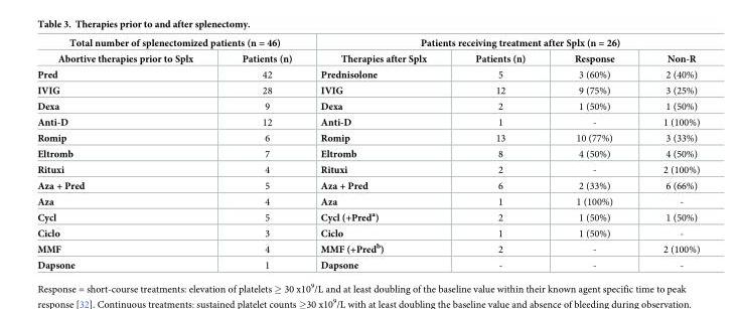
<table><thead><tr><td colspan="2">Total number of splenectomized patients (n = 46)</td><td colspan="4">Patients receiving treatment after Splx (n = 26)</td></tr><tr><td>Abortive therapies prior to Splx</td><td>Patients (n)</td><td>Therapies after Splx</td><td>Patients (n)</td><td>Response</td><td>Non-R</td></tr></thead><tbody><tr><td>Pred</td><td>42</td><td>Prednisolone</td><td>5</td><td>3 (60%)</td><td>2 (40%)</td></tr><tr><td>IVIG</td><td>28</td><td>IVIG</td><td>12</td><td>9 (75%)</td><td>3 (25%)</td></tr><tr><td>Dexa</td><td>9</td><td>Dexa</td><td>2</td><td>1 (50%)</td><td>1 (50%)</td></tr><tr><td>Anti-D</td><td>12</td><td>Anti-D</td><td>1</td><td>-</td><td>1 (100%)</td></tr><tr><td>Romip</td><td>6</td><td>Romip</td><td>13</td><td>10 (77%)</td><td>3 (33%)</td></tr><tr><td>Eltromb</td><td>7</td><td>Eltromb</td><td>8</td><td>4 (50%)</td><td>4 (50%)</td></tr><tr><td>Rituxi</td><td>4</td><td>Rituxi</td><td>2</td><td>-</td><td>2 (100%)</td></tr><tr><td>Aza + Pred</td><td>5</td><td>Aza + Pred</td><td>6</td><td>2 (33%)</td><td>6 (66%)</td></tr><tr><td>Aza</td><td>4</td><td>Aza</td><td>1</td><td>1 (100%)</td><td>-</td></tr><tr><td>Cycl</td><td>5</td><td>Cycl (+Pred<sup>a</sup>)</td><td>2</td><td>1 (50%)</td><td>1 (50%)</td></tr><tr><td>Ciclo</td><td>3</td><td>Ciclo</td><td>1</td><td>1 (50%)</td><td>-</td></tr><tr><td>MMF</td><td>4</td><td>MMF (+Pred<sup>b</sup>)</td><td>2</td><td>-</td><td>2 (100%)</td></tr><tr><td>Dapsone</td><td>1</td><td>Dapsone</td><td>-</td><td>-</td><td>-</td></tr></tbody></table>